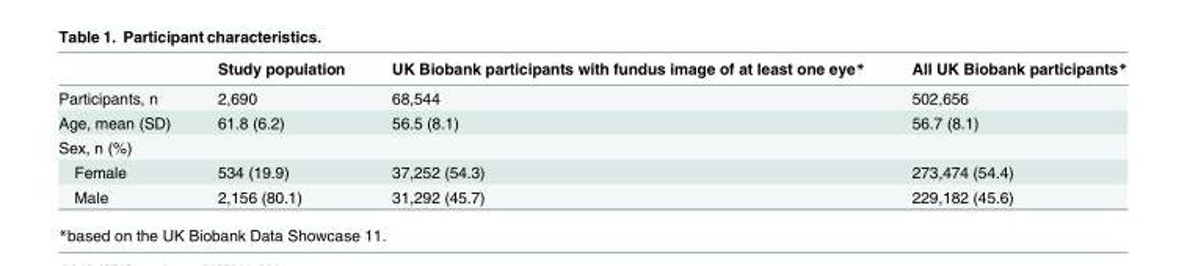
<table><thead><tr><td></td><td>Study population</td><td>UK Biobank participants with fundus image of at least one eye*</td><td>All UK Biobank participants*</td></tr></thead><tbody><tr><td>Participants, n</td><td>2,690</td><td>68,544</td><td>502,656</td></tr><tr><td>Age, mean (SD)</td><td>61.8 (6.2)</td><td>56.5 (8.1)</td><td>56.7 (8.1)</td></tr><tr><td colspan="4">Sex, n (%)</td></tr><tr><td>Female</td><td>534 (19.9)</td><td>37,252 (54.3)</td><td>273,474 (54.4)</td></tr><tr><td>Male</td><td>2,156 (80.1)</td><td>31,292 (45.7)</td><td>229,182 (45.6)</td></tr></tbody></table>